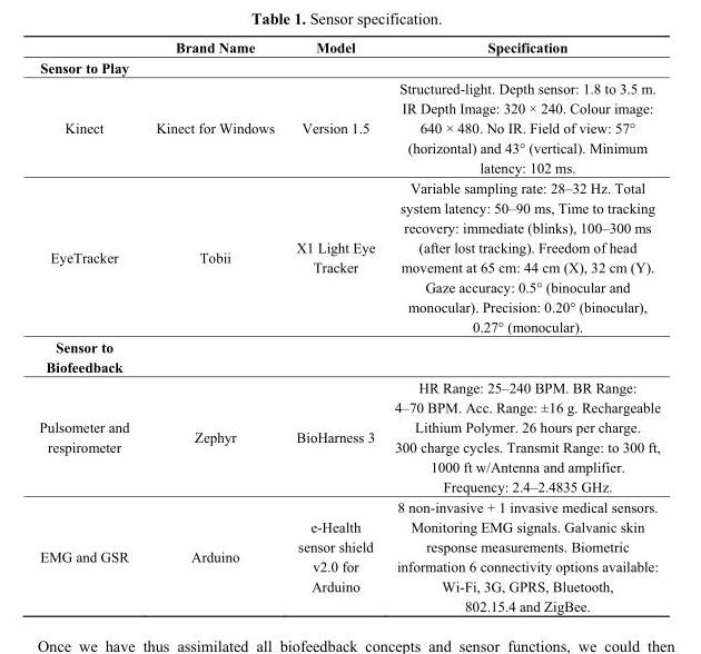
<table><thead><tr><td></td><td>Brand Name</td><td>Model</td><td>Specification</td></tr></thead><tbody><tr><td colspan="4">Sensor to Play</td></tr><tr><td>Kinect</td><td>Kinect for Windows</td><td>Version 1.5</td><td>Structured-light. Depth sensor: 1.8 to 3.5 m. IR Depth Image: 320 × 240. Colour image: 640 × 480. No IR. Field of view: 57° (horizontal) and 43° (vertical). Minimum latency: 102 ms.</td></tr><tr><td>EyeTracker</td><td>Tobii</td><td>X1 Light Eye Tracker</td><td>Variable sampling rate: 28–32 Hz. Total system latency: 50–90 ms, Time to tracking recovery: immediate (blinks), 100–300 ms (after lost tracking). Freedom of head movement at 65 cm: 44 cm (X), 32 cm (Y). Gaze accuracy: 0.5° (binocular and monocular). Precision: 0.20° (binocular), 0.27° (monocular).</td></tr><tr><td colspan="4">Sensor to Biofeedback</td></tr><tr><td>Pulsometer and respirometer</td><td>Zephyr</td><td>BioHarness 3</td><td>HR Range: 25–240 BPM. BR Range: 4–70 BPM. Acc. Range: ±16 g. Rechargeable Lithium Polymer. 26 hours per charge. 300 charge cycles. Transmit Range: to 300 ft, 1000 ft w/Antenna and amplifier. Frequency: 2.4–2.4835 GHz.</td></tr><tr><td>EMG and GSR</td><td>Arduino</td><td>e-Health sensor shield v2.0 for Arduino</td><td>8 non-invasive + 1 invasive medical sensors. Monitoring EMG signals. Galvanic skin response measurements. Biometric information 6 connectivity options available: Wi-Fi, 3G, GPRS, Bluetooth, 802.15.4 and ZigBee.</td></tr></tbody></table>